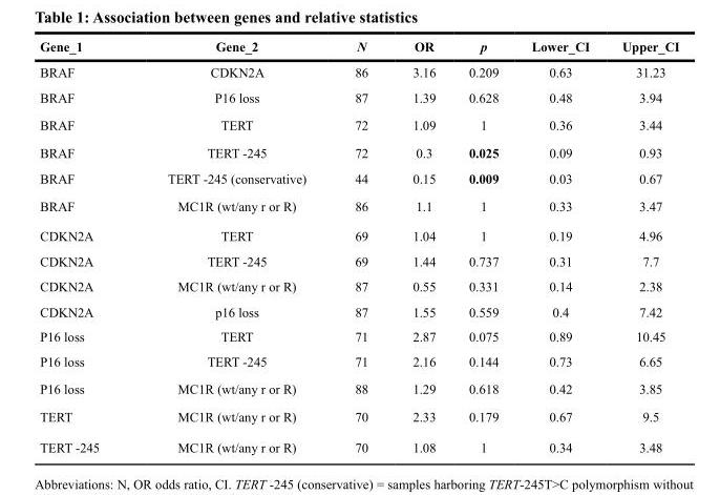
<table><thead><tr><td>Gene_1</td><td>Gene_2</td><td>N</td><td>OR</td><td>p</td><td>Lower_CI</td><td>Upper_CI</td></tr></thead><tbody><tr><td>BRAF</td><td>CDKN2A</td><td>86</td><td>3.16</td><td>0.209</td><td>0.63</td><td>31.23</td></tr><tr><td>BRAF</td><td>P16 loss</td><td>87</td><td>1.39</td><td>0.628</td><td>0.48</td><td>3.94</td></tr><tr><td>BRAF</td><td>TERT</td><td>72</td><td>1.09</td><td>1</td><td>0.36</td><td>3.44</td></tr><tr><td>BRAF</td><td>TERT -245</td><td>72</td><td>0.3</td><td>0.025</td><td>0.09</td><td>0.93</td></tr><tr><td>BRAF</td><td>TERT -245 (conservative)</td><td>44</td><td>0.15</td><td>0.009</td><td>0.03</td><td>0.67</td></tr><tr><td>BRAF</td><td>MC1R (wt/any r or R)</td><td>86</td><td>1.1</td><td>1</td><td>0.33</td><td>3.47</td></tr><tr><td>CDKN2A</td><td>TERT</td><td>69</td><td>1.04</td><td>1</td><td>0.19</td><td>4.96</td></tr><tr><td>CDKN2A</td><td>TERT -245</td><td>69</td><td>1.44</td><td>0.737</td><td>0.31</td><td>7.7</td></tr><tr><td>CDKN2A</td><td>MC1R (wt/any r or R)</td><td>87</td><td>0.55</td><td>0.331</td><td>0.14</td><td>2.38</td></tr><tr><td>CDKN2A</td><td>p16 loss</td><td>87</td><td>1.55</td><td>0.559</td><td>0.4</td><td>7.42</td></tr><tr><td>P16 loss</td><td>TERT</td><td>71</td><td>2.87</td><td>0.075</td><td>0.89</td><td>10.45</td></tr><tr><td>P16 loss</td><td>TERT -245</td><td>71</td><td>2.16</td><td>0.144</td><td>0.73</td><td>6.65</td></tr><tr><td>P16 loss</td><td>MC1R (wt/any r or R)</td><td>88</td><td>1.29</td><td>0.618</td><td>0.42</td><td>3.85</td></tr><tr><td>TERT</td><td>MC1R (wt/any r or R)</td><td>70</td><td>2.33</td><td>0.179</td><td>0.67</td><td>9.5</td></tr><tr><td>TERT -245</td><td>MC1R (wt/any r or R)</td><td>70</td><td>1.08</td><td>1</td><td>0.34</td><td>3.48</td></tr></tbody></table>